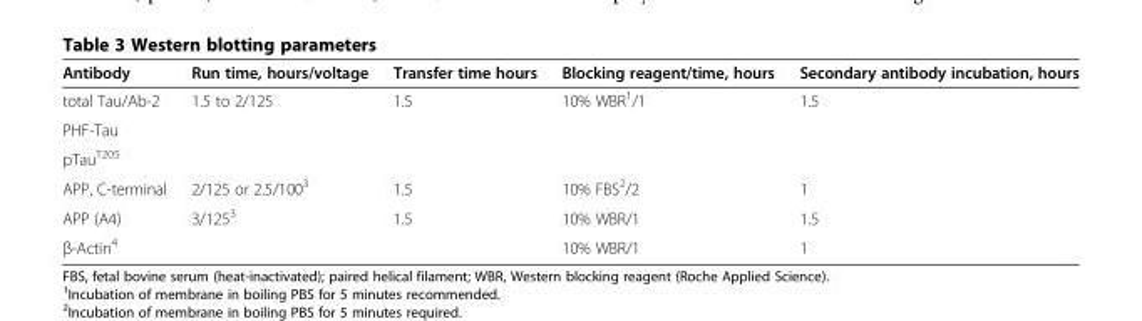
<table><thead><tr><td>Antibody</td><td>Run time, hours/voltage</td><td>Transfer time hours</td><td>Blocking reagent/time, hours</td><td>Secondary antibody incubation, hours</td></tr></thead><tbody><tr><td>total Tau/Ab-2</td><td rowspan="3">1.5 to 2/125</td><td rowspan="3">1.5</td><td rowspan="3">10% WBR<sup>1</sup>/1</td><td rowspan="3">1.5</td></tr><tr><td>PHF-Tau</td></tr><tr><td>pTau<sup>T205</sup></td></tr><tr><td>APP, C-terminal</td><td>2/125 or 2.5/100<sup>3</sup></td><td>1.5</td><td>10% FBS<sup>2</sup>/2</td><td>1</td></tr><tr><td>APP (A4)</td><td>3/1253</td><td>1.5</td><td>10% WBR/1</td><td>1.5</td></tr><tr><td>β-Actin<sup>4</sup></td><td></td><td></td><td>10% WBR/1</td><td>1</td></tr></tbody></table>